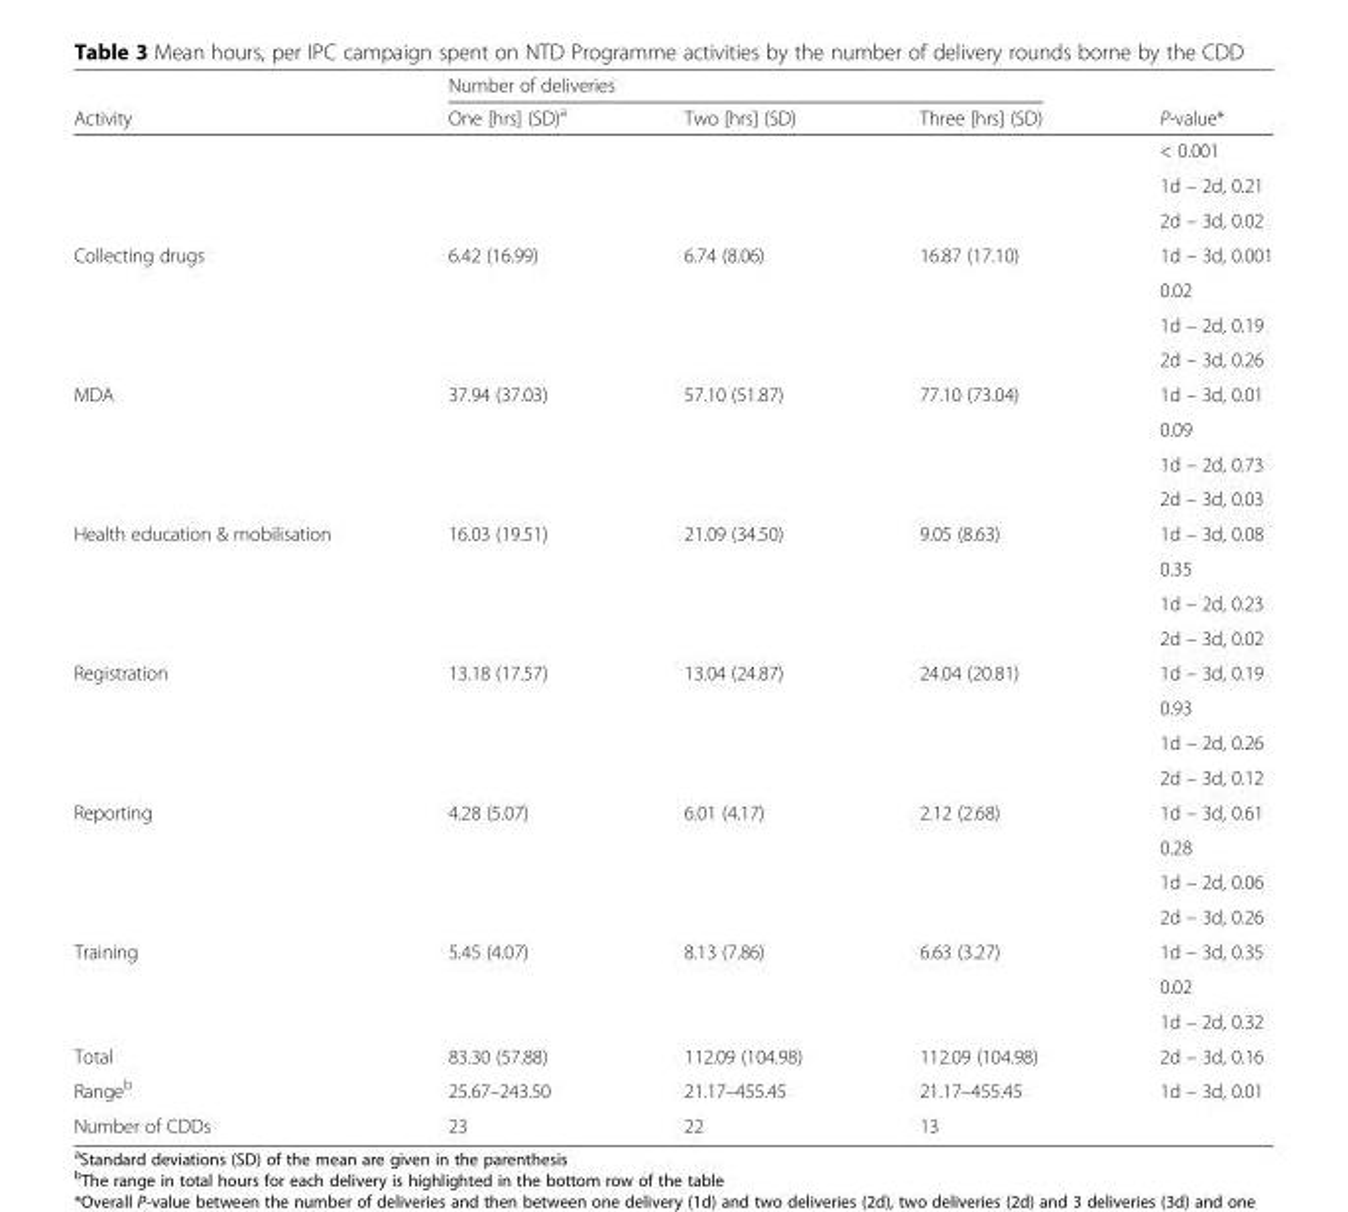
<table><thead><tr><td rowspan="2">Activity</td><td colspan="3">Number of deliveries</td><td rowspan="2">P-value*</td></tr><tr><td>One [hrs] (SD)<sup>a</sup></td><td>Two [hrs] (SD)</td><td>Three [hrs] (SD)</td></tr></thead><tbody><tr><td rowspan="3"></td><td rowspan="3"></td><td rowspan="3"></td><td rowspan="3"></td><td>&lt; 0.001</td></tr><tr><td>1d – 2d, 0.21</td></tr><tr><td>2d – 3d, 0.02</td></tr><tr><td rowspan="4">Collecting drugs</td><td>6.42 (16.99)</td><td>6.74 (8.06)</td><td>16.87 (17.10)</td><td>1d – 3d, 0.001</td></tr><tr><td rowspan="3"></td><td rowspan="3"></td><td rowspan="3"></td><td>0.02</td></tr><tr><td>1d – 2d, 0.19</td></tr><tr><td>2d – 3d, 0.26</td></tr><tr><td rowspan="4">MDA</td><td>37.94 (37.03)</td><td>57.10 (51.87)</td><td>77.10 (73.04)</td><td>1d – 3d, 0.01</td></tr><tr><td rowspan="3"></td><td rowspan="3"></td><td rowspan="3"></td><td>0.09</td></tr><tr><td>1d – 2d, 0.73</td></tr><tr><td>2d – 3d, 0.03</td></tr><tr><td rowspan="4">Health education &amp; mobilisation</td><td>16.03 (19.51)</td><td>21.09 (34.50)</td><td>9.05 (8.63)</td><td>1d – 3d, 0.08</td></tr><tr><td rowspan="3"></td><td rowspan="3"></td><td rowspan="3"></td><td>0.35</td></tr><tr><td>1d – 2d, 0.23</td></tr><tr><td>2d – 3d, 0.02</td></tr><tr><td rowspan="4">Registration</td><td>13.18 (17.57)</td><td>13.04 (24.87)</td><td>24.04 (20.81)</td><td>1d – 3d, 0.19</td></tr><tr><td rowspan="3"></td><td rowspan="3"></td><td rowspan="3"></td><td>0.93</td></tr><tr><td>1d – 2d, 0.26</td></tr><tr><td>2d – 3d, 0.12</td></tr><tr><td rowspan="4">Reporting</td><td>4.28 (5.07)</td><td>6.01 (4.17)</td><td>2.12 (2.68)</td><td>1d – 3d, 0.61</td></tr><tr><td rowspan="3"></td><td rowspan="3"></td><td rowspan="3"></td><td>0.28</td></tr><tr><td>1d – 2d, 0.06</td></tr><tr><td>2d – 3d, 0.26</td></tr><tr><td rowspan="3">Training</td><td>5.45 (4.07)</td><td>8.13 (7.86)</td><td>6.63 (3.27)</td><td>1d – 3d, 0.35</td></tr><tr><td rowspan="2"></td><td rowspan="2"></td><td rowspan="2"></td><td>0.02</td></tr><tr><td>1d – 2d, 0.32</td></tr><tr><td>Total</td><td>83.30 (57.88)</td><td>112.09 (104.98)</td><td>112.09 (104.98)</td><td>2d – 3d, 0.16</td></tr><tr><td>Range<sup>b</sup></td><td>25.67–243.50</td><td>21.17–455.45</td><td>21.17–455.45</td><td>1d – 3d, 0.01</td></tr><tr><td>Number of CDDs</td><td>23</td><td>22</td><td>13</td><td></td></tr></tbody></table>